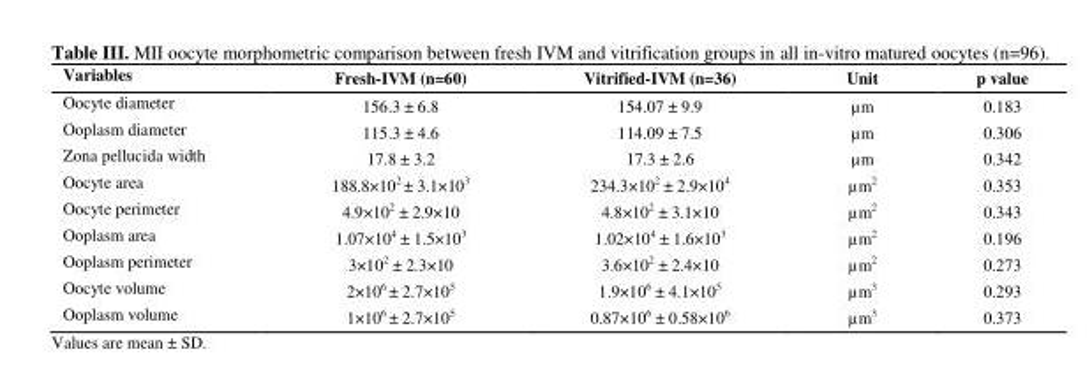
<table><thead><tr><td>Variables</td><td>Fresh-IVM (n=60)</td><td>Vitrified-IVM (n=36)</td><td>Unit</td><td>p value</td></tr></thead><tbody><tr><td>Oocyte diameter</td><td>156.3 ± 6.8</td><td>154.07 ± 9.9</td><td>µm</td><td>0.183</td></tr><tr><td>Ooplasm diameter</td><td>115.3 ± 4.6</td><td>114.09 ± 7.5</td><td>µm</td><td>0.306</td></tr><tr><td>Zona pellucida width</td><td>17.8 ± 3.2</td><td>17.3 ± 2.6</td><td>µm</td><td>0.342</td></tr><tr><td>Oocyte area</td><td>188.8×10<sup>2</sup> ± 3.1×10<sup>3</sup></td><td>234.3×10<sup>2</sup> ± 2.9×10<sup>4</sup></td><td>µm<sup>2</sup></td><td>0.353</td></tr><tr><td>Oocyte perimeter</td><td>4.9×10<sup>2</sup> ± 2.9×10</td><td>4.8×10<sup>2</sup> ± 3.1×10</td><td>µm<sup>2</sup></td><td>0.343</td></tr><tr><td>Ooplasm area</td><td>1.07×10<sup>4</sup> ± 1.5×10<sup>3</sup></td><td>1.02×10<sup>4</sup> ± 1.6×10<sup>3</sup></td><td>µm<sup>2</sup></td><td>0.196</td></tr><tr><td>Ooplasm perimeter</td><td>3×10<sup>2</sup> ± 2.3×10</td><td>3.6×10<sup>2</sup> ± 2.4×10</td><td>µm<sup>2</sup></td><td>0.273</td></tr><tr><td>Oocyte volume</td><td>2×10<sup>6</sup> ± 2.7×10<sup>5</sup></td><td>1.9×10<sup>6</sup> ± 4.1×10<sup>5</sup></td><td>µm<sup>3</sup></td><td>0.293</td></tr><tr><td>Ooplasm volume</td><td>1×10<sup>6</sup> ± 2.7×10<sup>5</sup></td><td>0.87×10<sup>6</sup> ± 0.58×10<sup>6</sup></td><td>µm<sup>3</sup></td><td>0.373</td></tr></tbody></table>